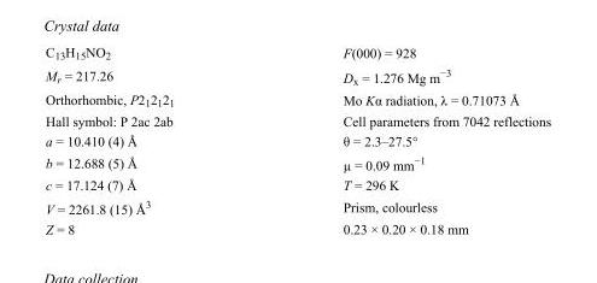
<table><tbody><tr><td>C<sub>13</sub>H<sub>15</sub>NO<sub>2</sub></td><td>F(000) = 928</td></tr><tr><td>M<sub>r</sub> = 217.26</td><td>D<sub>x</sub> = 1.276 Mg m<sup>−3</sup></td></tr><tr><td>Orthorhombic, P2<sub>1</sub>2<sub>1</sub>2<sub>1</sub></td><td>Mo Kα radiation, λ = 0.71073 Å</td></tr><tr><td>Hall symbol: P 2ac 2ab</td><td>Cell parameters from 7042 reflections</td></tr><tr><td>a = 10.410 (4) Å</td><td>θ = 2.3–27.5°</td></tr><tr><td>b = 12.688 (5) Å</td><td>µ = 0.09 mm<sup>−1</sup></td></tr><tr><td>c = 17.124 (7) Å</td><td>T = 296 K</td></tr><tr><td>V = 2261.8 (15) Å<sup>3</sup></td><td>Prism, colourless</td></tr><tr><td>Z = 8</td><td>0.23 × 0.20 × 0.18 mm</td></tr></tbody></table>